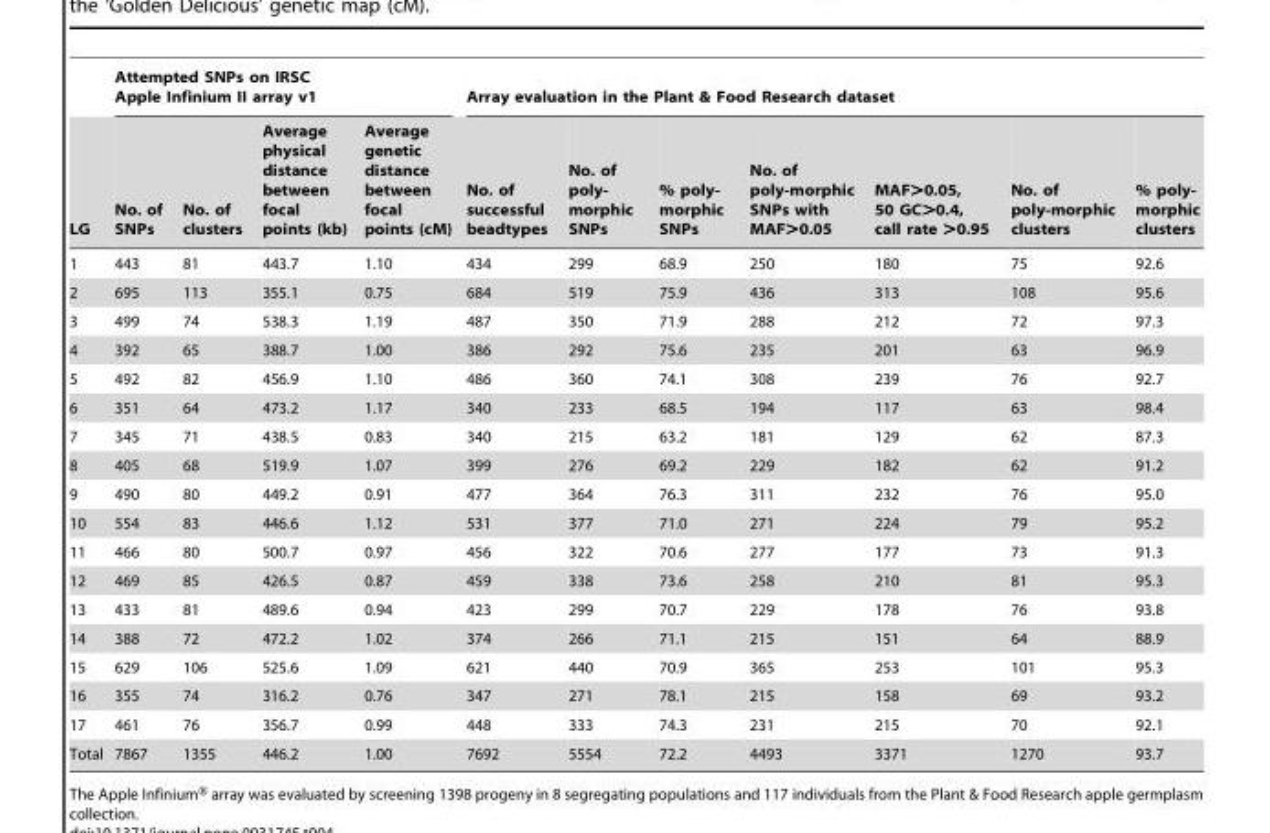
<table><thead><tr><td rowspan="2">LG</td><td colspan="4">Attempted SNPs on IRSC Apple Infinium II array v1</td><td colspan="7">Array evaluation in the Plant &amp; Food Research dataset</td></tr><tr><td>No. of SNPs</td><td>No. of clusters</td><td>Average physical distance between focal points (kb)</td><td>Average genetic distance between focal points (cM)</td><td>No. of successful beadtypes</td><td>No. of poly- morphic SNPs</td><td>% poly- morphic SNPs</td><td>No. of poly-morphic SNPs with MAF&gt;0.05</td><td>MAF&gt;0.05, 50 GC&gt;0.4, call rate &gt;0.95</td><td>No. of poly-morphic clusters</td><td>% poly- morphic clusters</td></tr></thead><tbody><tr><td>1</td><td>443</td><td>81</td><td>443.7</td><td>1.10</td><td>434</td><td>299</td><td>68.9</td><td>250</td><td>180</td><td>75</td><td>92.6</td></tr><tr><td>2</td><td>695</td><td>113</td><td>355.1</td><td>0.75</td><td>684</td><td>519</td><td>75.9</td><td>436</td><td>313</td><td>108</td><td>95.6</td></tr><tr><td>3</td><td>499</td><td>74</td><td>538.3</td><td>1.19</td><td>487</td><td>350</td><td>71.9</td><td>288</td><td>212</td><td>72</td><td>97.3</td></tr><tr><td>4</td><td>392</td><td>65</td><td>388.7</td><td>1.00</td><td>386</td><td>292</td><td>75.6</td><td>235</td><td>201</td><td>63</td><td>96.9</td></tr><tr><td>5</td><td>492</td><td>82</td><td>456.9</td><td>1.10</td><td>486</td><td>360</td><td>74.1</td><td>308</td><td>239</td><td>76</td><td>92.7</td></tr><tr><td>6</td><td>351</td><td>64</td><td>473.2</td><td>1.17</td><td>340</td><td>233</td><td>68.5</td><td>194</td><td>117</td><td>63</td><td>98.4</td></tr><tr><td>7</td><td>345</td><td>71</td><td>438.5</td><td>0.83</td><td>340</td><td>215</td><td>63.2</td><td>181</td><td>129</td><td>62</td><td>87.3</td></tr><tr><td>8</td><td>405</td><td>68</td><td>519.9</td><td>1.07</td><td>399</td><td>276</td><td>69.2</td><td>229</td><td>182</td><td>62</td><td>91.2</td></tr><tr><td>9</td><td>490</td><td>80</td><td>449.2</td><td>0.91</td><td>477</td><td>364</td><td>76.3</td><td>311</td><td>232</td><td>76</td><td>95.0</td></tr><tr><td>10</td><td>554</td><td>83</td><td>446.6</td><td>1.12</td><td>531</td><td>377</td><td>71.0</td><td>271</td><td>224</td><td>79</td><td>95.2</td></tr><tr><td>11</td><td>466</td><td>80</td><td>500.7</td><td>0.97</td><td>456</td><td>322</td><td>70.6</td><td>277</td><td>177</td><td>73</td><td>91.3</td></tr><tr><td>12</td><td>469</td><td>85</td><td>426.5</td><td>0.87</td><td>459</td><td>338</td><td>73.6</td><td>258</td><td>210</td><td>81</td><td>95.3</td></tr><tr><td>13</td><td>433</td><td>81</td><td>489.6</td><td>0.94</td><td>423</td><td>299</td><td>70.7</td><td>229</td><td>178</td><td>76</td><td>93.8</td></tr><tr><td>14</td><td>388</td><td>72</td><td>472.2</td><td>1.02</td><td>374</td><td>266</td><td>71.1</td><td>215</td><td>151</td><td>64</td><td>88.9</td></tr><tr><td>15</td><td>629</td><td>106</td><td>525.6</td><td>1.09</td><td>621</td><td>440</td><td>70.9</td><td>365</td><td>253</td><td>101</td><td>95.3</td></tr><tr><td>16</td><td>355</td><td>74</td><td>316.2</td><td>0.76</td><td>347</td><td>271</td><td>78.1</td><td>215</td><td>158</td><td>69</td><td>93.2</td></tr><tr><td>17</td><td>461</td><td>76</td><td>356.7</td><td>0.99</td><td>448</td><td>333</td><td>74.3</td><td>231</td><td>215</td><td>70</td><td>92.1</td></tr><tr><td>Total</td><td>7867</td><td>1355</td><td>446.2</td><td>1.00</td><td>7692</td><td>5554</td><td>72.2</td><td>4493</td><td>3371</td><td>1270</td><td>93.7</td></tr></tbody></table>